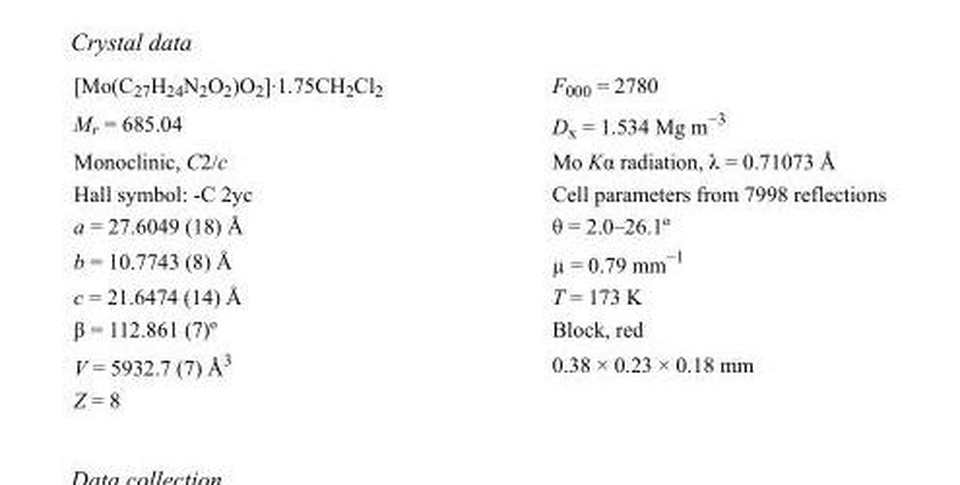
<table><tbody><tr><td>[Mo(C<sub>27</sub>H<sub>24</sub>N<sub>2</sub>O<sub>2</sub>)O<sub>2</sub>]·1.75CH<sub>2</sub>Cl<sub>2</sub></td><td>F000 = 2780</td></tr><tr><td>M<sub>r</sub> = 685.04</td><td>D<sub>x</sub> = 1.534 Mg m<sup>−3</sup></td></tr><tr><td>Monoclinic, C2/c</td><td>Mo Kα radiation, λ = 0.71073 Å</td></tr><tr><td>Hall symbol: -C 2yc</td><td>Cell parameters from 7998 reflections</td></tr><tr><td>a = 27.6049 (18) Å</td><td>θ = 2.0–26.1º</td></tr><tr><td>b = 10.7743 (8) Å</td><td>µ = 0.79 mm<sup>−1</sup></td></tr><tr><td>c = 21.6474 (14) Å</td><td>T = 173 K</td></tr><tr><td>β = 112.861 (7)º</td><td>Block, red</td></tr><tr><td>V = 5932.7 (7) Å<sup>3</sup></td><td>0.38 × 0.23 × 0.18 mm</td></tr><tr><td>Z = 8</td><td></td></tr></tbody></table>